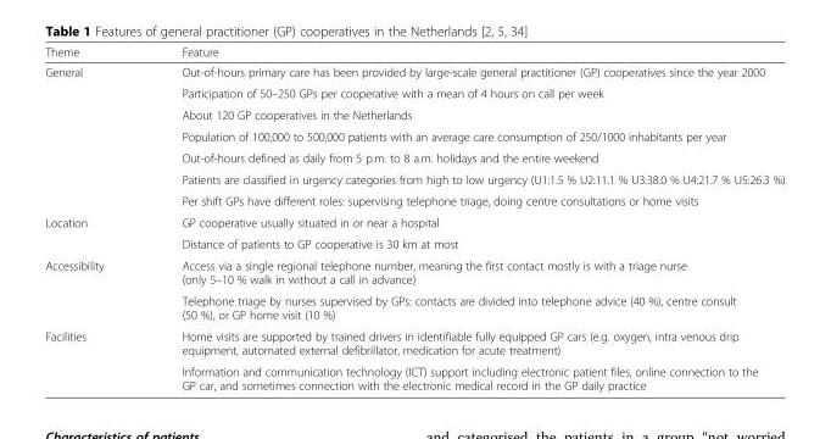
<table><thead><tr><td>Theme</td><td>Feature</td></tr></thead><tbody><tr><td rowspan="7">General</td><td>Out-of-hours primary care has been provided by large-scale general practitioner (GP) cooperatives since the year 2000</td></tr><tr><td>Participation of 50–250 GPs per cooperative with a mean of 4 hours on call per week</td></tr><tr><td>About 120 GP cooperatives in the Netherlands</td></tr><tr><td>Population of 100,000 to 500,000 patients with an average care consumption of 250/1000 inhabitants per year</td></tr><tr><td>Out-of-hours defined as daily from 5 p.m. to 8 a.m. holidays and the entire weekend</td></tr><tr><td>Patients are classified in urgency categories from high to low urgency (U1:1.5 % U2:11.1 % U3:38.0 % U4:21.7 % U5:26.3 %)</td></tr><tr><td>Per shift GPs have different roles: supervising telephone triage, doing centre consultations or home visits</td></tr><tr><td rowspan="2">Location</td><td>GP cooperative usually situated in or near a hospital</td></tr><tr><td>Distance of patients to GP cooperative is 30 km at most</td></tr><tr><td rowspan="2">Accessibility</td><td>Access via a single regional telephone number, meaning the first contact mostly is with a triage nurse (only 5–10 % walk in without a call in advance)</td></tr><tr><td>Telephone triage by nurses supervised by GPs: contacts are divided into telephone advice (40 %), centre consult (50 %), or GP home visit (10 %)</td></tr><tr><td rowspan="2">Facilities</td><td>Home visits are supported by trained drivers in identifiable fully equipped GP cars (e.g. oxygen, intra venous drip equipment, automated external defibrillator, medication for acute treatment)</td></tr><tr><td>Information and communication technology (ICT) support including electronic patient files, online connection to the GP car, and sometimes connection with the electronic medical record in the GP daily practice</td></tr></tbody></table>